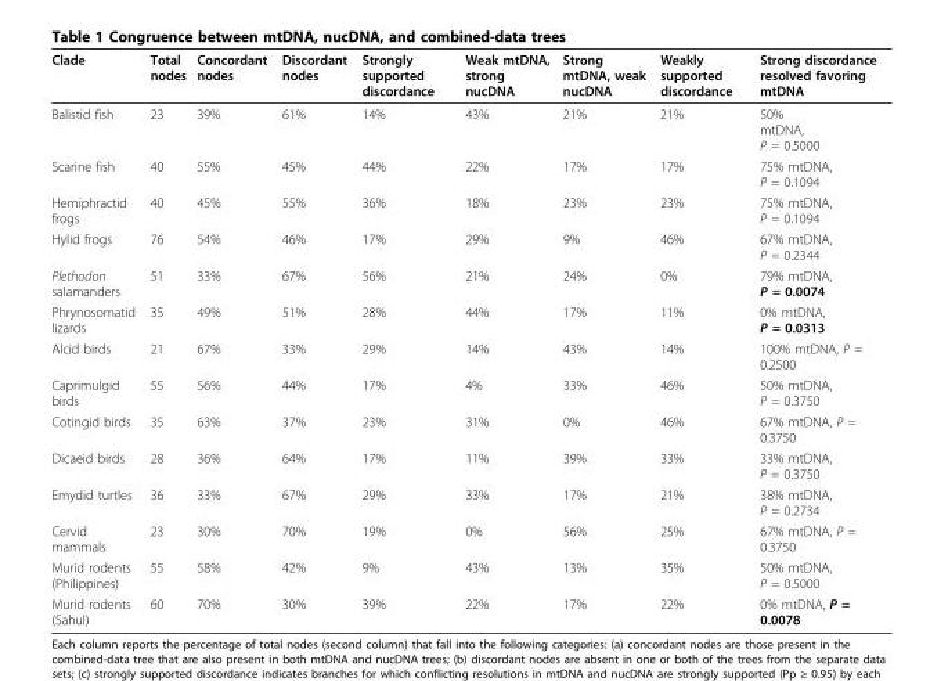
<table><thead><tr><td>Clade</td><td>Total nodes</td><td>Concordant nodes</td><td>Discordant nodes</td><td>Strongly supported discordance</td><td>Weak mtDNA, strong nucDNA</td><td>Strong mtDNA, weak nucDNA</td><td>Weakly supported discordance</td><td>Strong discordance resolved favoring mtDNA</td></tr></thead><tbody><tr><td>Balistid fish</td><td>23</td><td>39%</td><td>61%</td><td>14%</td><td>43%</td><td>21%</td><td>21%</td><td>50% mtDNA, P = 0.5000</td></tr><tr><td>Scarine fish</td><td>40</td><td>55%</td><td>45%</td><td>44%</td><td>22%</td><td>17%</td><td>17%</td><td>75% mtDNA, P = 0.1094</td></tr><tr><td>Hemiphractid frogs</td><td>40</td><td>45%</td><td>55%</td><td>36%</td><td>18%</td><td>23%</td><td>23%</td><td>75% mtDNA, P = 0.1094</td></tr><tr><td>Hylid frogs</td><td>76</td><td>54%</td><td>46%</td><td>17%</td><td>29%</td><td>9%</td><td>46%</td><td>67% mtDNA, P = 0.2344</td></tr><tr><td>Plethodon salamanders</td><td>51</td><td>33%</td><td>67%</td><td>56%</td><td>21%</td><td>24%</td><td>0%</td><td>79% mtDNA, P = 0.0074</td></tr><tr><td>Phrynosomatid lizards</td><td>35</td><td>49%</td><td>51%</td><td>28%</td><td>44%</td><td>17%</td><td>11%</td><td>0% mtDNA, P = 0.0313</td></tr><tr><td>Alcid birds</td><td>21</td><td>67%</td><td>33%</td><td>29%</td><td>14%</td><td>43%</td><td>14%</td><td>100% mtDNA, P = 0.2500</td></tr><tr><td>Caprimulgid birds</td><td>55</td><td>56%</td><td>44%</td><td>17%</td><td>4%</td><td>33%</td><td>46%</td><td>50% mtDNA, P = 0.3750</td></tr><tr><td>Cotingid birds</td><td>35</td><td>63%</td><td>37%</td><td>23%</td><td>31%</td><td>0%</td><td>46%</td><td>67% mtDNA, P = 0.3750</td></tr><tr><td>Dicaeid birds</td><td>28</td><td>36%</td><td>64%</td><td>17%</td><td>11%</td><td>39%</td><td>33%</td><td>33% mtDNA, P = 0.3750</td></tr><tr><td>Emydid turtles</td><td>36</td><td>33%</td><td>67%</td><td>29%</td><td>33%</td><td>17%</td><td>21%</td><td>38% mtDNA, P = 0.2734</td></tr><tr><td>Cervid mammals</td><td>23</td><td>30%</td><td>70%</td><td>19%</td><td>0%</td><td>56%</td><td>25%</td><td>67% mtDNA, P = 0.3750</td></tr><tr><td>Murid rodents (Philippines)</td><td>55</td><td>58%</td><td>42%</td><td>9%</td><td>43%</td><td>13%</td><td>35%</td><td>50% mtDNA, P = 0.5000</td></tr><tr><td>Murid rodents (Sahul)</td><td>60</td><td>70%</td><td>30%</td><td>39%</td><td>22%</td><td>17%</td><td>22%</td><td>0% mtDNA, P = 0.0078</td></tr></tbody></table>